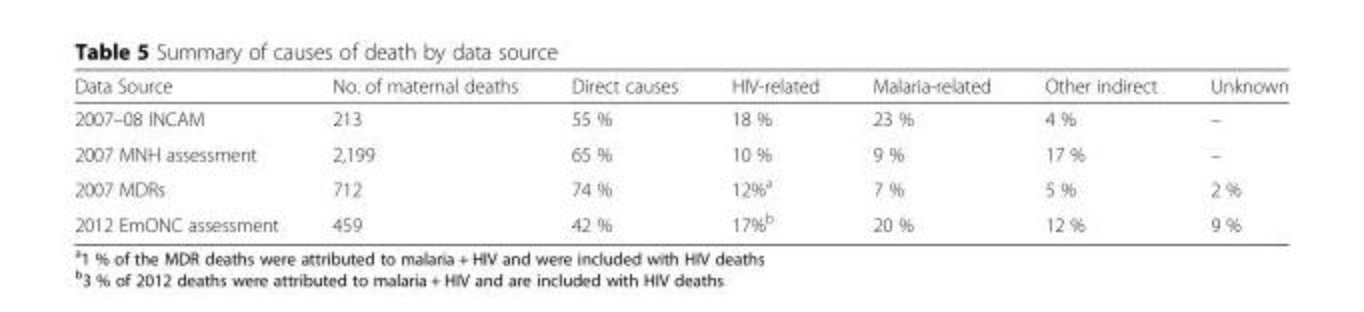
<table><thead><tr><td>Data Source</td><td>No. of maternal deaths</td><td>Direct causes</td><td>HIV-related</td><td>Malaria-related</td><td>Other indirect</td><td>Unknown</td></tr></thead><tbody><tr><td>2007–08 INCAM</td><td>213</td><td>55 %</td><td>18 %</td><td>23 %</td><td>4 %</td><td>–</td></tr><tr><td>2007 MNH assessment</td><td>2,199</td><td>65 %</td><td>10 %</td><td>9 %</td><td>17 %</td><td>–</td></tr><tr><td>2007 MDRs</td><td>712</td><td>74 %</td><td>12%<sup>a</sup></td><td>7 %</td><td>5 %</td><td>2 %</td></tr><tr><td>2012 EmONC assessment</td><td>459</td><td>42 %</td><td>17%<sup>b</sup></td><td>20 %</td><td>12 %</td><td>9 %</td></tr></tbody></table>